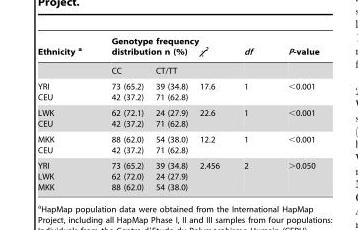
<table><thead><tr><td rowspan="2">Ethnicity a</td><td colspan="2">Genotype frequency distribution n (%)</td><td rowspan="2">χ<sup>2</sup></td><td rowspan="2">df</td><td rowspan="2">P-value</td></tr><tr><td>CC</td><td>CT/TT</td></tr></thead><tbody><tr><td>YRI CEU</td><td>73 (65.2) 42 (37.2)</td><td>39 (34.8) 71 (62.8)</td><td>17.6</td><td>1</td><td>&lt;0.001</td></tr><tr><td>LWK CEU</td><td>62 (72.1) 42 (37.2)</td><td>24 (27.9) 71 (62.8)</td><td>22.6</td><td>1</td><td>&lt;0.001</td></tr><tr><td>MKK CEU</td><td>88 (62.0) 42 (37.2)</td><td>54 (38.0) 71 (62.8)</td><td>12.2</td><td>1</td><td>&lt;0.001</td></tr><tr><td>YRI LWK MKK</td><td>73 (65.2) 62 (72.0) 88 (62.0)</td><td>39 (34.8) 24 (27.9) 54 (38.0)</td><td>2.456</td><td>2</td><td>&gt;0.050</td></tr></tbody></table>